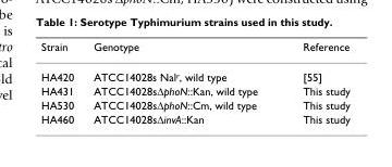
<table><thead><tr><td>Strain</td><td>Genotype</td><td>Reference</td></tr></thead><tbody><tr><td>HA420</td><td>ATCC14028s Nal<sup>r</sup>, wild type</td><td>[55]</td></tr><tr><td>HA431</td><td>ATCC14028sΔphoN::Kan, wild type</td><td>This study</td></tr><tr><td>HA530</td><td>ATCC14028sΔphoN::Cm, wild type</td><td>This study</td></tr><tr><td>HA460</td><td>ATCC14028sΔinvA::Kan</td><td>This study</td></tr></tbody></table>